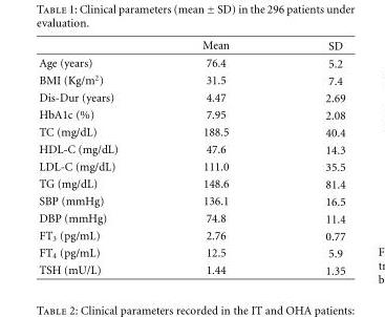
<table><thead><tr><td></td><td>Mean</td><td>SD</td></tr></thead><tbody><tr><td>Age (years)</td><td>76.4</td><td>5.2</td></tr><tr><td>BMI (Kg/m<sup>2</sup>)</td><td>31.5</td><td>7.4</td></tr><tr><td>Dis-Dur (years)</td><td>4.47</td><td>2.69</td></tr><tr><td>HbA1c (%)</td><td>7.95</td><td>2.08</td></tr><tr><td>TC (mg/dL)</td><td>188.5</td><td>40.4</td></tr><tr><td>HDL-C (mg/dL)</td><td>47.6</td><td>14.3</td></tr><tr><td>LDL-C (mg/dL)</td><td>111.0</td><td>35.5</td></tr><tr><td>TG (mg/dL)</td><td>148.6</td><td>81.4</td></tr><tr><td>SBP (mmHg)</td><td>136.1</td><td>16.5</td></tr><tr><td>DBP (mmHg)</td><td>74.8</td><td>11.4</td></tr><tr><td>FT<sub>3</sub> (pg/mL)</td><td>2.76</td><td>0.77</td></tr><tr><td>FT<sub>4</sub> (pg/mL)</td><td>12.5</td><td>5.9</td></tr><tr><td>TSH (mU/L)</td><td>1.44</td><td>1.35</td></tr></tbody></table>